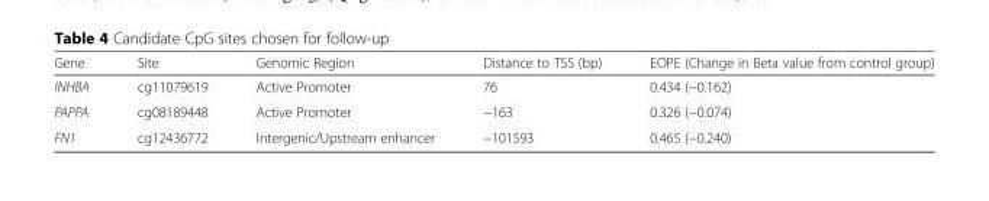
<table><thead><tr><td>Gene</td><td>Site</td><td>Genomic Region</td><td>Distance to TSS (bp)</td><td>EOPE (Change in Beta value from control group)</td></tr></thead><tbody><tr><td>INHBA</td><td>cg11079619</td><td>Active Promoter</td><td>76</td><td>0.434 (−0.162)</td></tr><tr><td>PAPPA</td><td>cg08189448</td><td>Active Promoter</td><td>−163</td><td>0.326 (−0.074)</td></tr><tr><td>FN1</td><td>cg12436772</td><td>Intergenic/Upstream enhancer</td><td>−101593</td><td>0.465 (−0.240)</td></tr></tbody></table>